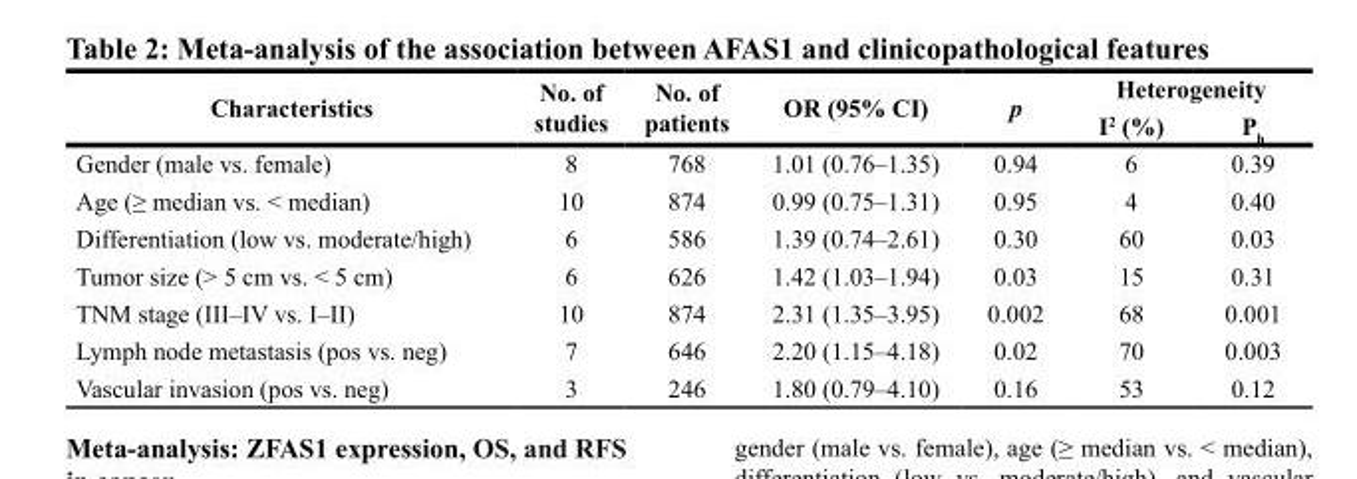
<table><thead><tr><td rowspan="2">Characteristics</td><td rowspan="2">No. of studies</td><td rowspan="2">No. of patients</td><td rowspan="2">OR (95% CI)</td><td rowspan="2">p</td><td colspan="2">Heterogeneity</td></tr><tr><td>I<sup>2</sup> (%)</td><td>P<sub>h</sub></td></tr></thead><tbody><tr><td>Gender (male vs. female)</td><td>8</td><td>768</td><td>1.01 (0.76–1.35)</td><td>0.94</td><td>6</td><td>0.39</td></tr><tr><td>Age (≥ median vs. &lt; median)</td><td>10</td><td>874</td><td>0.99 (0.75–1.31)</td><td>0.95</td><td>4</td><td>0.40</td></tr><tr><td>Differentiation (low vs. moderate/high)</td><td>6</td><td>586</td><td>1.39 (0.74–2.61)</td><td>0.30</td><td>60</td><td>0.03</td></tr><tr><td>Tumor size (&gt; 5 cm vs. &lt; 5 cm)</td><td>6</td><td>626</td><td>1.42 (1.03–1.94)</td><td>0.03</td><td>15</td><td>0.31</td></tr><tr><td>TNM stage (III–IV vs. I–II)</td><td>10</td><td>874</td><td>2.31 (1.35–3.95)</td><td>0.002</td><td>68</td><td>0.001</td></tr><tr><td>Lymph node metastasis (pos vs. neg)</td><td>7</td><td>646</td><td>2.20 (1.15–4.18)</td><td>0.02</td><td>70</td><td>0.003</td></tr><tr><td>Vascular invasion (pos vs. neg)</td><td>3</td><td>246</td><td>1.80 (0.79–4.10)</td><td>0.16</td><td>53</td><td>0.12</td></tr></tbody></table>